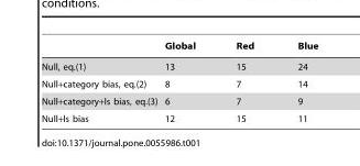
<table><thead><tr><td></td><td>Global</td><td>Red</td><td>Blue</td></tr></thead><tbody><tr><td>Null, eq.(1)</td><td>13</td><td>15</td><td>24</td></tr><tr><td>Null+category bias, eq.(2)</td><td>8</td><td>7</td><td>14</td></tr><tr><td>Null+category+ls bias, eq.(3)</td><td>6</td><td>7</td><td>9</td></tr><tr><td>Null+ls bias</td><td>12</td><td>15</td><td>11</td></tr></tbody></table>